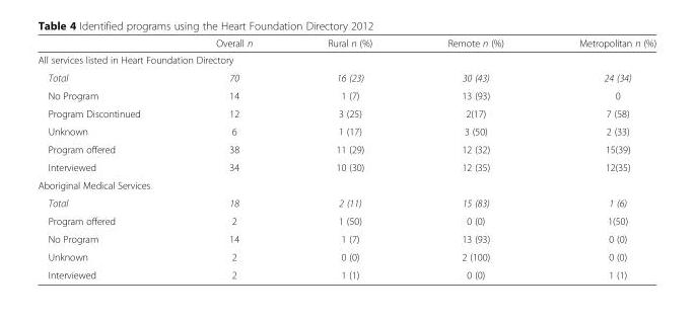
<table><thead><tr><td></td><td>Overall n</td><td>Rural n (%)</td><td>Remote n (%)</td><td>Metropolitan n (%)</td></tr></thead><tbody><tr><td colspan="5">All services listed in Heart Foundation Directory</td></tr><tr><td>Total</td><td>70</td><td>16 (23)</td><td>30 (43)</td><td>24 (34)</td></tr><tr><td>No Program</td><td>14</td><td>1 (7)</td><td>13 (93)</td><td>0</td></tr><tr><td>Program Discontinued</td><td>12</td><td>3 (25)</td><td>2(17)</td><td>7 (58)</td></tr><tr><td>Unknown</td><td>6</td><td>1 (17)</td><td>3 (50)</td><td>2 (33)</td></tr><tr><td>Program offered</td><td>38</td><td>11 (29)</td><td>12 (32)</td><td>15(39)</td></tr><tr><td>Interviewed</td><td>34</td><td>10 (30)</td><td>12 (35)</td><td>12(35)</td></tr><tr><td colspan="5">Aboriginal Medical Services</td></tr><tr><td>Total</td><td>18</td><td>2 (11)</td><td>15 (83)</td><td>1 (6)</td></tr><tr><td>Program offered</td><td>2</td><td>1 (50)</td><td>0 (0)</td><td>1(50)</td></tr><tr><td>No Program</td><td>14</td><td>1 (7)</td><td>13 (93)</td><td>0 (0)</td></tr><tr><td>Unknown</td><td>2</td><td>0 (0)</td><td>2 (100)</td><td>0 (0)</td></tr><tr><td>Interviewed</td><td>2</td><td>1 (1)</td><td>0 (0)</td><td>1 (1)</td></tr></tbody></table>